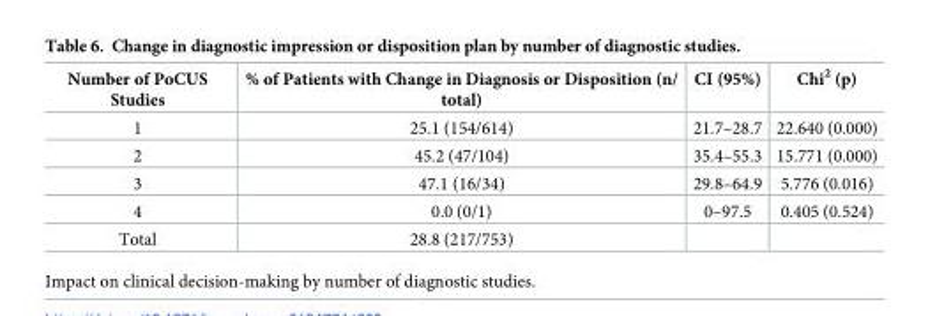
<table><thead><tr><td>Number of PoCUS Studies</td><td>% of Patients with Change in Diagnosis or Disposition (n/ total)</td><td>CI (95%)</td><td>Chi<sup>2</sup> (p)</td></tr></thead><tbody><tr><td>1</td><td>25.1 (154/614)</td><td>21.7–28.7</td><td>22.640 (0.000)</td></tr><tr><td>2</td><td>45.2 (47/104)</td><td>35.4–55.3</td><td>15.771 (0.000)</td></tr><tr><td>3</td><td>47.1 (16/34)</td><td>29.8–64.9</td><td>5.776 (0.016)</td></tr><tr><td>4</td><td>0.0 (0/1)</td><td>0–97.5</td><td>0.405 (0.524)</td></tr><tr><td>Total</td><td>28.8 (217/753)</td><td></td><td></td></tr></tbody></table>